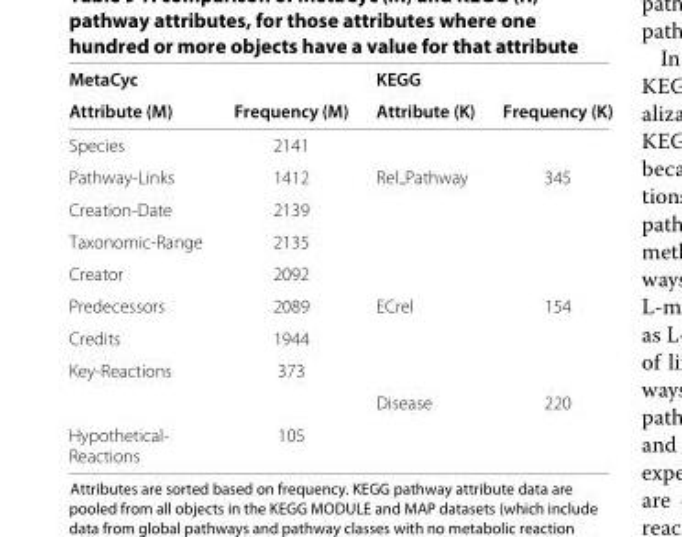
<table><thead><tr><td rowspan="2">MetaCyc Attribute (M)</td><td rowspan="2">Frequency (M)</td><td rowspan="2">KEGG Attribute (K)</td><td rowspan="2">Frequency (K)</td></tr><tr></tr></thead><tbody><tr><td>Species</td><td>2141</td><td></td><td></td></tr><tr><td>Pathway-Links</td><td>1412</td><td>Rel Pathway</td><td>345</td></tr><tr><td>Creation-Date</td><td>2139</td><td></td><td></td></tr><tr><td>Taxonomic-Range</td><td>2135</td><td></td><td></td></tr><tr><td>Creator</td><td>2092</td><td></td><td></td></tr><tr><td>Predecessors</td><td>2089</td><td>ECrel</td><td>154</td></tr><tr><td>Credits</td><td>1944</td><td></td><td></td></tr><tr><td rowspan="2">Key-Reactions</td><td>373</td><td></td><td></td></tr><tr><td></td><td>Disease</td><td>220</td></tr><tr><td>Hypothetical- Reactions</td><td>105</td><td></td><td></td></tr></tbody></table>